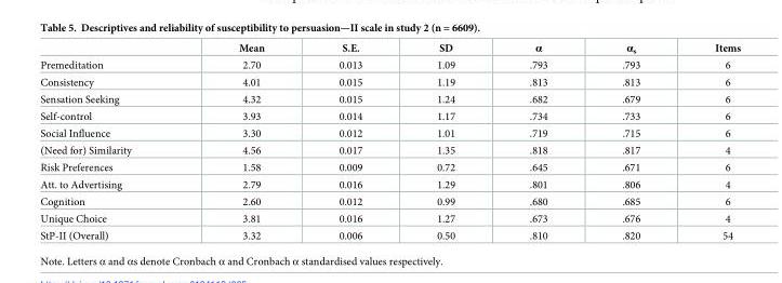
<table><thead><tr><td></td><td>Mean</td><td>S.E.</td><td>SD</td><td>α</td><td>α<sub>s</sub></td><td>Items</td></tr></thead><tbody><tr><td>Premeditation</td><td>2.70</td><td>0.013</td><td>1.09</td><td>.793</td><td>.793</td><td>6</td></tr><tr><td>Consistency</td><td>4.01</td><td>0.015</td><td>1.19</td><td>.813</td><td>.813</td><td>6</td></tr><tr><td>Sensation Seeking</td><td>4.32</td><td>0.015</td><td>1.24</td><td>.682</td><td>.679</td><td>6</td></tr><tr><td>Self-control</td><td>3.93</td><td>0.014</td><td>1.17</td><td>.734</td><td>.733</td><td>6</td></tr><tr><td>Social Influence</td><td>3.30</td><td>0.012</td><td>1.01</td><td>.719</td><td>.715</td><td>6</td></tr><tr><td>(Need for) Similarity</td><td>4.56</td><td>0.017</td><td>1.35</td><td>.818</td><td>.817</td><td>4</td></tr><tr><td>Risk Preferences</td><td>1.58</td><td>0.009</td><td>0.72</td><td>.645</td><td>.671</td><td>6</td></tr><tr><td>Att. to Advertising</td><td>2.79</td><td>0.016</td><td>1.29</td><td>.801</td><td>.806</td><td>4</td></tr><tr><td>Cognition</td><td>2.60</td><td>0.012</td><td>0.99</td><td>.680</td><td>.685</td><td>6</td></tr><tr><td>Unique Choice</td><td>3.81</td><td>0.016</td><td>1.27</td><td>.673</td><td>.676</td><td>4</td></tr><tr><td>StP-II (Overall)</td><td>3.32</td><td>0.006</td><td>0.50</td><td>.810</td><td>.820</td><td>54</td></tr></tbody></table>